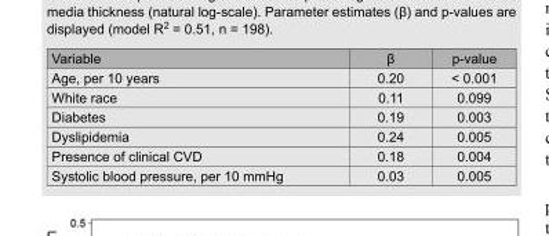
<table><thead><tr><td>Variable</td><td>β</td><td>p-value</td></tr></thead><tbody><tr><td>Age, per 10 years</td><td>0.20</td><td>&lt; 0.001</td></tr><tr><td>White race</td><td>0.11</td><td>0.099</td></tr><tr><td>Diabetes</td><td>0.19</td><td>0.003</td></tr><tr><td>Dyslipidemia</td><td>0.24</td><td>0.005</td></tr><tr><td>Presence of clinical CVD</td><td>0.18</td><td>0.004</td></tr><tr><td>Systolic blood pressure, per 10 mmHg</td><td>0.03</td><td>0.005</td></tr></tbody></table>